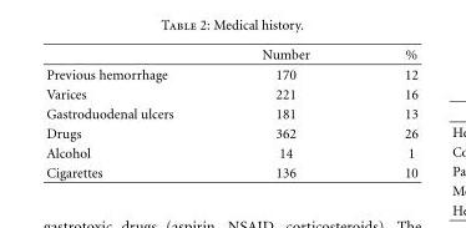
<table><thead><tr><td></td><td>Number</td><td>%</td></tr></thead><tbody><tr><td>Previous hemorrhage</td><td>170</td><td>12</td></tr><tr><td>Varices</td><td>221</td><td>16</td></tr><tr><td>Gastroduodenal ulcers</td><td>181</td><td>13</td></tr><tr><td>Drugs</td><td>362</td><td>26</td></tr><tr><td>Alcohol</td><td>14</td><td>1</td></tr><tr><td>Cigarettes</td><td>136</td><td>10</td></tr></tbody></table>